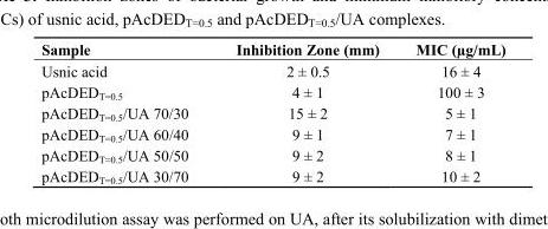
<table><thead><tr><td>Sample</td><td>Inhibition Zone (mm)</td><td>MIC (µg/mL)</td></tr></thead><tbody><tr><td>Usnic acid</td><td>2 ± 0.5</td><td>16 ± 4</td></tr><tr><td>pAcDED<sub>T=0.5</sub></td><td>4 ± 1</td><td>100 ± 3</td></tr><tr><td>pAcDED<sub>T=0.5</sub>/UA 70/30</td><td>15 ± 2</td><td>5 ± 1</td></tr><tr><td>pAcDED<sub>T=0.5</sub>/UA 60/40</td><td>9 ± 1</td><td>7 ± 1</td></tr><tr><td>pAcDED<sub>T=0.5</sub>/UA 50/50</td><td>9 ± 2</td><td>8 ± 1</td></tr><tr><td>pAcDED<sub>T=0.5</sub>/UA 30/70</td><td>9 ± 2</td><td>10 ± 2</td></tr></tbody></table>